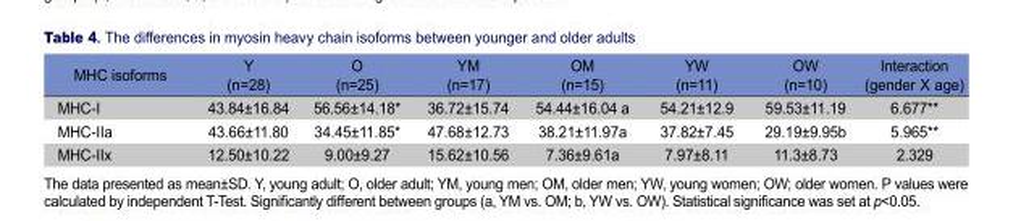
<table><thead><tr><td>MHC isoforms</td><td>Y (n=28)</td><td>O (n=25)</td><td>YM (n=17)</td><td>OM (n=15)</td><td>YW (n=11)</td><td>OW (n=10)</td><td>Interaction (gender X age)</td></tr></thead><tbody><tr><td>MHC-I</td><td>43.84±16.84</td><td>56.56±14.18*</td><td>36.72±15.74</td><td>54.44±16.04 a</td><td>54.21±12.9</td><td>59.53±11.19</td><td>6.677**</td></tr><tr><td>MHC-IIa</td><td>43.66±11.80</td><td>34.45±11.85*</td><td>47.68±12.73</td><td>38.21±11.97a</td><td>37.82±7.45</td><td>29.19±9.95b</td><td>5.965**</td></tr><tr><td>MHC-IIx</td><td>12.50±10.22</td><td>9.00±9.27</td><td>15.62±10.56</td><td>7.36±9.61a</td><td>7.97±8.11</td><td>11.3±8.73</td><td>2.329</td></tr></tbody></table>